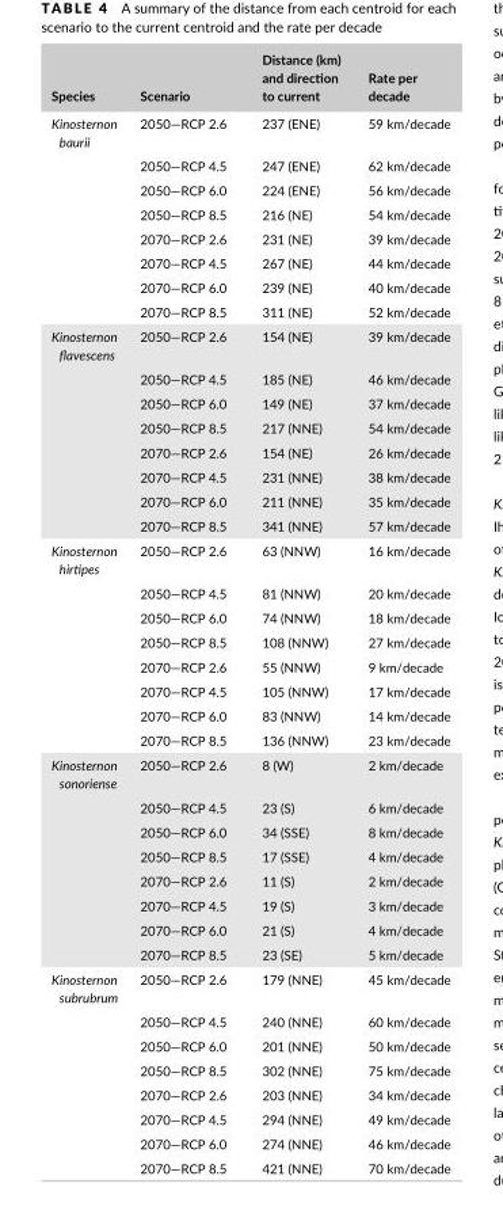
<table><thead><tr><td>Species</td><td>Scenario</td><td>Distance (km) and direction to current</td><td>Rate per decade</td></tr></thead><tbody><tr><td rowspan="8">Kinosternon baurii</td><td>2050—RCP 2.6</td><td>237 (ENE)</td><td>59 km/decade</td></tr><tr><td>2050—RCP 4.5</td><td>247 (ENE)</td><td>62 km/decade</td></tr><tr><td>2050—RCP 6.0</td><td>224 (ENE)</td><td>56 km/decade</td></tr><tr><td>2050—RCP 8.5</td><td>216 (NE)</td><td>54 km/decade</td></tr><tr><td>2070—RCP 2.6</td><td>231 (NE)</td><td>39 km/decade</td></tr><tr><td>2070—RCP 4.5</td><td>267 (NE)</td><td>44 km/decade</td></tr><tr><td>2070—RCP 6.0</td><td>239 (NE)</td><td>40 km/decade</td></tr><tr><td>2070—RCP 8.5</td><td>311 (NE)</td><td>52 km/decade</td></tr><tr><td rowspan="8">Kinosternon flavescens</td><td>2050—RCP 2.6</td><td>154 (NE)</td><td>39 km/decade</td></tr><tr><td>2050—RCP 4.5</td><td>185 (NE)</td><td>46 km/decade</td></tr><tr><td>2050—RCP 6.0</td><td>149 (NE)</td><td>37 km/decade</td></tr><tr><td>2050—RCP 8.5</td><td>217 (NNE)</td><td>54 km/decade</td></tr><tr><td>2070—RCP 2.6</td><td>154 (NE)</td><td>26 km/decade</td></tr><tr><td>2070—RCP 4.5</td><td>231 (NNE)</td><td>38 km/decade</td></tr><tr><td>2070—RCP 6.0</td><td>211 (NNE)</td><td>35 km/decade</td></tr><tr><td>2070—RCP 8.5</td><td>341 (NNE)</td><td>57 km/decade</td></tr><tr><td rowspan="8">Kinosternon hirtipes</td><td>2050—RCP 2.6</td><td>63 (NNW)</td><td>16 km/decade</td></tr><tr><td>2050—RCP 4.5</td><td>81 (NNW)</td><td>20 km/decade</td></tr><tr><td>2050—RCP 6.0</td><td>74 (NNW)</td><td>18 km/decade</td></tr><tr><td>2050—RCP 8.5</td><td>108 (NNW)</td><td>27 km/decade</td></tr><tr><td>2070—RCP 2.6</td><td>55 (NNW)</td><td>9 km/decade</td></tr><tr><td>2070—RCP 4.5</td><td>105 (NNW)</td><td>17 km/decade</td></tr><tr><td>2070—RCP 6.0</td><td>83 (NNW)</td><td>14 km/decade</td></tr><tr><td>2070—RCP 8.5</td><td>136 (NNW)</td><td>23 km/decade</td></tr><tr><td rowspan="8">Kinosternon sonoriense</td><td>2050—RCP 2.6</td><td>8 (W)</td><td>2 km/decade</td></tr><tr><td>2050—RCP 4.5</td><td>23 (S)</td><td>6 km/decade</td></tr><tr><td>2050—RCP 6.0</td><td>34 (SSE)</td><td>8 km/decade</td></tr><tr><td>2050—RCP 8.5</td><td>17 (SSE)</td><td>4 km/decade</td></tr><tr><td>2070—RCP 2.6</td><td>11 (S)</td><td>2 km/decade</td></tr><tr><td>2070—RCP 4.5</td><td>19 (S)</td><td>3 km/decade</td></tr><tr><td>2070—RCP 6.0</td><td>21 (S)</td><td>4 km/decade</td></tr><tr><td>2070—RCP 8.5</td><td>23 (SE)</td><td>5 km/decade</td></tr><tr><td rowspan="8">Kinosternon subrubrum</td><td>2050—RCP 2.6</td><td>179 (NNE)</td><td>45 km/decade</td></tr><tr><td>2050—RCP 4.5</td><td>240 (NNE)</td><td>60 km/decade</td></tr><tr><td>2050—RCP 6.0</td><td>201 (NNE)</td><td>50 km/decade</td></tr><tr><td>2050—RCP 8.5</td><td>302 (NNE)</td><td>75 km/decade</td></tr><tr><td>2070—RCP 2.6</td><td>203 (NNE)</td><td>34 km/decade</td></tr><tr><td>2070—RCP 4.5</td><td>294 (NNE)</td><td>49 km/decade</td></tr><tr><td>2070—RCP 6.0</td><td>274 (NNE)</td><td>46 km/decade</td></tr><tr><td>2070—RCP 8.5</td><td>421 (NNE)</td><td>70 km/decade</td></tr></tbody></table>